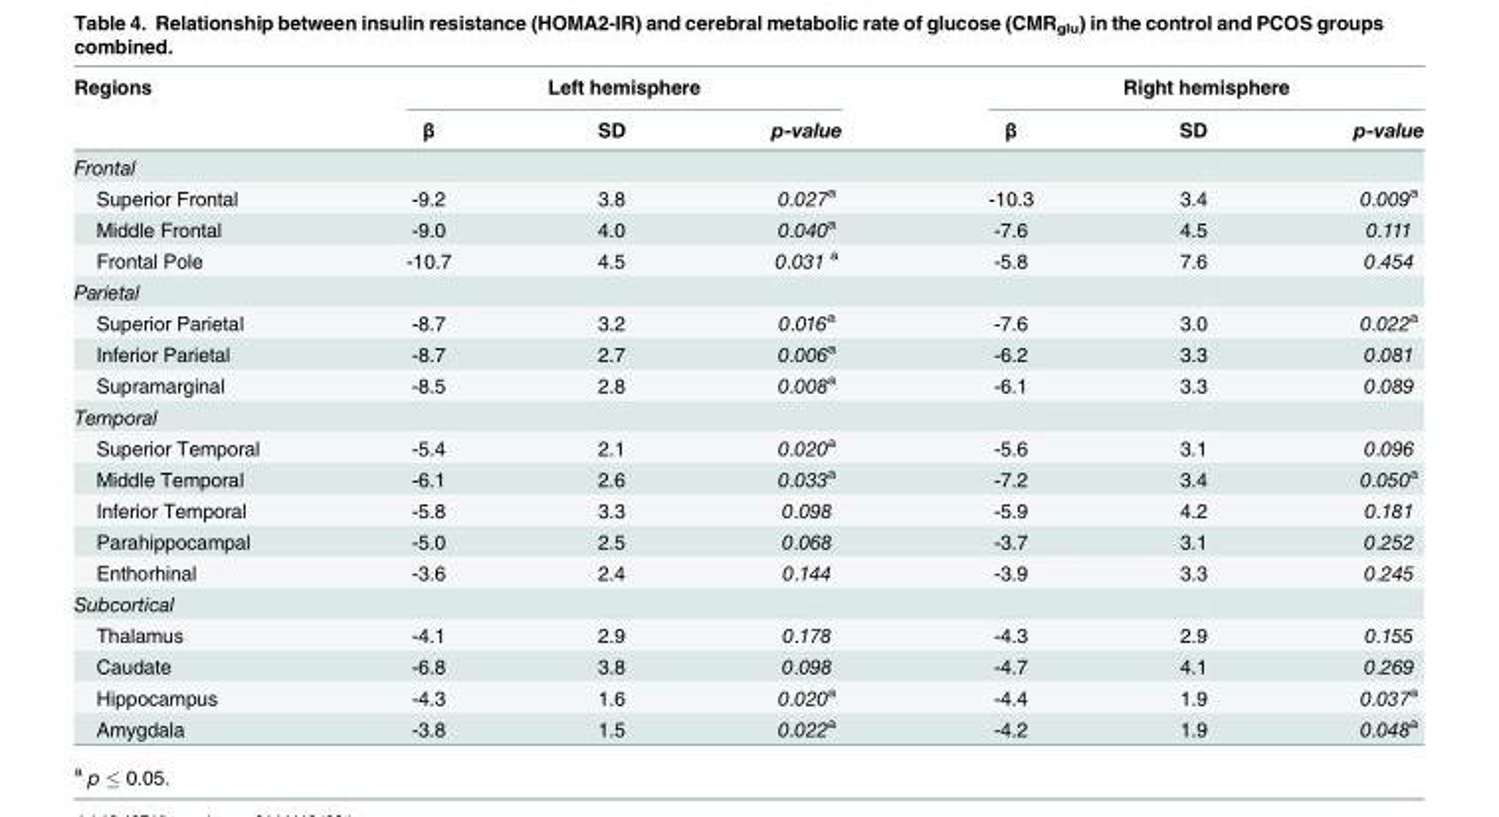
<table><thead><tr><td rowspan="2">Regions</td><td colspan="3">Left hemisphere</td><td colspan="3">Right hemisphere</td></tr><tr><td>β</td><td>SD</td><td>p-value</td><td>β</td><td>SD</td><td>p-value</td></tr></thead><tbody><tr><td colspan="7">Frontal</td></tr><tr><td>Superior Frontal</td><td>-9.2</td><td>3.8</td><td>0.027<sup>a</sup></td><td>-10.3</td><td>3.4</td><td>0.009<sup>a</sup></td></tr><tr><td>Middle Frontal</td><td>-9.0</td><td>4.0</td><td>0.040<sup>a</sup></td><td>-7.6</td><td>4.5</td><td>0.111</td></tr><tr><td>Frontal Pole</td><td>-10.7</td><td>4.5</td><td>0.031 <sup>a</sup></td><td>-5.8</td><td>7.6</td><td>0.454</td></tr><tr><td colspan="7">Parietal</td></tr><tr><td>Superior Parietal</td><td>-8.7</td><td>3.2</td><td>0.016<sup>a</sup></td><td>-7.6</td><td>3.0</td><td>0.022<sup>a</sup></td></tr><tr><td>Inferior Parietal</td><td>-8.7</td><td>2.7</td><td>0.006<sup>a</sup></td><td>-6.2</td><td>3.3</td><td>0.081</td></tr><tr><td>Supramarginal</td><td>-8.5</td><td>2.8</td><td>0.008<sup>a</sup></td><td>-6.1</td><td>3.3</td><td>0.089</td></tr><tr><td colspan="7">Temporal</td></tr><tr><td>Superior Temporal</td><td>-5.4</td><td>2.1</td><td>0.020<sup>a</sup></td><td>-5.6</td><td>3.1</td><td>0.096</td></tr><tr><td>Middle Temporal</td><td>-6.1</td><td>2.6</td><td>0.033<sup>a</sup></td><td>-7.2</td><td>3.4</td><td>0.050<sup>a</sup></td></tr><tr><td>Inferior Temporal</td><td>-5.8</td><td>3.3</td><td>0.098</td><td>-5.9</td><td>4.2</td><td>0.181</td></tr><tr><td>Parahippocampal</td><td>-5.0</td><td>2.5</td><td>0.068</td><td>-3.7</td><td>3.1</td><td>0.252</td></tr><tr><td>Enthorhinal</td><td>-3.6</td><td>2.4</td><td>0.144</td><td>-3.9</td><td>3.3</td><td>0.245</td></tr><tr><td colspan="7">Subcortical</td></tr><tr><td>Thalamus</td><td>-4.1</td><td>2.9</td><td>0.178</td><td>-4.3</td><td>2.9</td><td>0.155</td></tr><tr><td>Caudate</td><td>-6.8</td><td>3.8</td><td>0.098</td><td>-4.7</td><td>4.1</td><td>0.269</td></tr><tr><td>Hippocampus</td><td>-4.3</td><td>1.6</td><td>0.020<sup>a</sup></td><td>-4.4</td><td>1.9</td><td>0.037<sup>a</sup></td></tr><tr><td>Amygdala</td><td>-3.8</td><td>1.5</td><td>0.022<sup>a</sup></td><td>-4.2</td><td>1.9</td><td>0.048<sup>a</sup></td></tr></tbody></table>